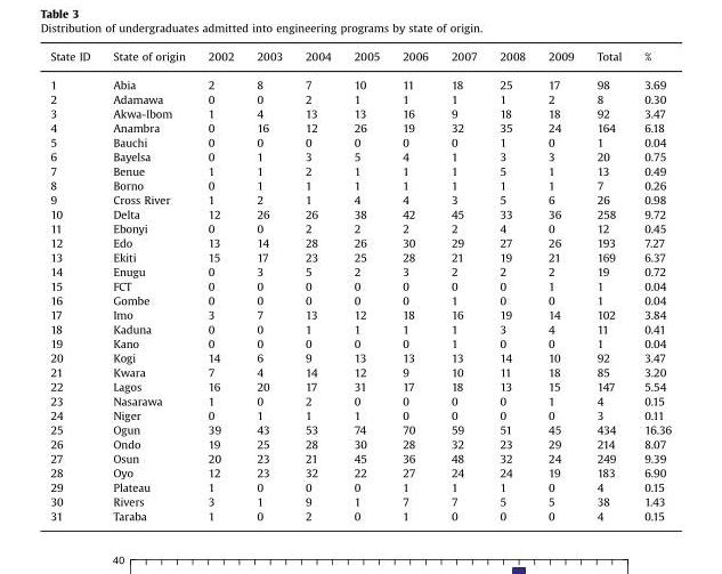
<table><thead><tr><td>State ID</td><td>State of origin</td><td>2002</td><td>2003</td><td>2004</td><td>2005</td><td>2006</td><td>2007</td><td>2008</td><td>2009</td><td>Total</td><td>%</td></tr></thead><tbody><tr><td>1</td><td>Abia</td><td>2</td><td>8</td><td>7</td><td>10</td><td>11</td><td>18</td><td>25</td><td>17</td><td>98</td><td>3.69</td></tr><tr><td>2</td><td>Adamawa</td><td>0</td><td>0</td><td>2</td><td>1</td><td>1</td><td>1</td><td>1</td><td>2</td><td>8</td><td>0.30</td></tr><tr><td>3</td><td>Akwa-Ibom</td><td>1</td><td>4</td><td>13</td><td>13</td><td>16</td><td>9</td><td>18</td><td>18</td><td>92</td><td>3.47</td></tr><tr><td>4</td><td>Anambra</td><td>0</td><td>16</td><td>12</td><td>26</td><td>19</td><td>32</td><td>35</td><td>24</td><td>164</td><td>6.18</td></tr><tr><td>5</td><td>Bauchi</td><td>0</td><td>0</td><td>0</td><td>0</td><td>0</td><td>0</td><td>1</td><td>0</td><td>1</td><td>0.04</td></tr><tr><td>6</td><td>Bayelsa</td><td>0</td><td>1</td><td>3</td><td>5</td><td>4</td><td>1</td><td>3</td><td>3</td><td>20</td><td>0.75</td></tr><tr><td>7</td><td>Benue</td><td>1</td><td>1</td><td>2</td><td>1</td><td>1</td><td>1</td><td>5</td><td>1</td><td>13</td><td>0.49</td></tr><tr><td>8</td><td>Borno</td><td>0</td><td>1</td><td>1</td><td>1</td><td>1</td><td>1</td><td>1</td><td>1</td><td>7</td><td>0.26</td></tr><tr><td>9</td><td>Cross River</td><td>1</td><td>2</td><td>1</td><td>4</td><td>4</td><td>3</td><td>5</td><td>6</td><td>26</td><td>0.98</td></tr><tr><td>10</td><td>Delta</td><td>12</td><td>26</td><td>26</td><td>38</td><td>42</td><td>45</td><td>33</td><td>36</td><td>258</td><td>9.72</td></tr><tr><td>11</td><td>Ebonyi</td><td>0</td><td>0</td><td>2</td><td>2</td><td>2</td><td>2</td><td>4</td><td>0</td><td>12</td><td>0.45</td></tr><tr><td>12</td><td>Edo</td><td>13</td><td>14</td><td>28</td><td>26</td><td>30</td><td>29</td><td>27</td><td>26</td><td>193</td><td>7.27</td></tr><tr><td>13</td><td>Ekiti</td><td>15</td><td>17</td><td>23</td><td>25</td><td>28</td><td>21</td><td>19</td><td>21</td><td>169</td><td>6.37</td></tr><tr><td>14</td><td>Enugu</td><td>0</td><td>3</td><td>5</td><td>2</td><td>3</td><td>2</td><td>2</td><td>2</td><td>19</td><td>0.72</td></tr><tr><td>15</td><td>FCT</td><td>0</td><td>0</td><td>0</td><td>0</td><td>0</td><td>0</td><td>0</td><td>1</td><td>1</td><td>0.04</td></tr><tr><td>16</td><td>Gombe</td><td>0</td><td>0</td><td>0</td><td>0</td><td>0</td><td>1</td><td>0</td><td>0</td><td>1</td><td>0.04</td></tr><tr><td>17</td><td>Imo</td><td>3</td><td>7</td><td>13</td><td>12</td><td>18</td><td>16</td><td>19</td><td>14</td><td>102</td><td>3.84</td></tr><tr><td>18</td><td>Kaduna</td><td>0</td><td>0</td><td>1</td><td>1</td><td>1</td><td>1</td><td>3</td><td>4</td><td>11</td><td>0.41</td></tr><tr><td>19</td><td>Kano</td><td>0</td><td>0</td><td>0</td><td>0</td><td>0</td><td>1</td><td>0</td><td>0</td><td>1</td><td>0.04</td></tr><tr><td>20</td><td>Kogi</td><td>14</td><td>6</td><td>9</td><td>13</td><td>13</td><td>13</td><td>14</td><td>10</td><td>92</td><td>3.47</td></tr><tr><td>21</td><td>Kwara</td><td>7</td><td>4</td><td>14</td><td>12</td><td>9</td><td>10</td><td>11</td><td>18</td><td>85</td><td>3.20</td></tr><tr><td>22</td><td>Lagos</td><td>16</td><td>20</td><td>17</td><td>31</td><td>17</td><td>18</td><td>13</td><td>15</td><td>147</td><td>5.54</td></tr><tr><td>23</td><td>Nasarawa</td><td>1</td><td>0</td><td>2</td><td>0</td><td>0</td><td>0</td><td>0</td><td>1</td><td>4</td><td>0.15</td></tr><tr><td>24</td><td>Niger</td><td>0</td><td>1</td><td>1</td><td>1</td><td>0</td><td>0</td><td>0</td><td>0</td><td>3</td><td>0.11</td></tr><tr><td>25</td><td>Ogun</td><td>39</td><td>43</td><td>53</td><td>74</td><td>70</td><td>59</td><td>51</td><td>45</td><td>434</td><td>16.36</td></tr><tr><td>26</td><td>Ondo</td><td>19</td><td>25</td><td>28</td><td>30</td><td>28</td><td>32</td><td>23</td><td>29</td><td>214</td><td>8.07</td></tr><tr><td>27</td><td>Osun</td><td>20</td><td>23</td><td>21</td><td>45</td><td>36</td><td>48</td><td>32</td><td>24</td><td>249</td><td>9.39</td></tr><tr><td>28</td><td>Oyo</td><td>12</td><td>23</td><td>32</td><td>22</td><td>27</td><td>24</td><td>24</td><td>19</td><td>183</td><td>6.90</td></tr><tr><td>29</td><td>Plateau</td><td>1</td><td>0</td><td>0</td><td>0</td><td>1</td><td>1</td><td>1</td><td>0</td><td>4</td><td>0.15</td></tr><tr><td>30</td><td>Rivers</td><td>3</td><td>1</td><td>9</td><td>1</td><td>7</td><td>7</td><td>5</td><td>5</td><td>38</td><td>1.43</td></tr><tr><td>31</td><td>Taraba</td><td>1</td><td>0</td><td>2</td><td>0</td><td>1</td><td>0</td><td>0</td><td>0</td><td>4</td><td>0.15</td></tr></tbody></table>